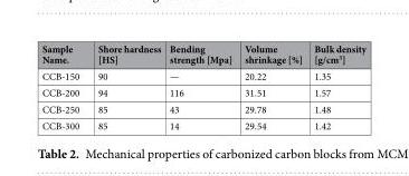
<table><thead><tr><td>Sample Name.</td><td>Shore hardness [HS]</td><td>Bending strength [Mpa]</td><td>Volume shrinkage [%]</td><td>Bulk density [g/cm<sup>3</sup>]</td></tr></thead><tbody><tr><td>CCB-150</td><td>90</td><td>—</td><td>20.22</td><td>1.35</td></tr><tr><td>CCB-200</td><td>94</td><td>116</td><td>31.51</td><td>1.57</td></tr><tr><td>CCB-250</td><td>85</td><td>43</td><td>29.78</td><td>1.48</td></tr><tr><td>CCB-300</td><td>85</td><td>14</td><td>29.54</td><td>1.42</td></tr></tbody></table>